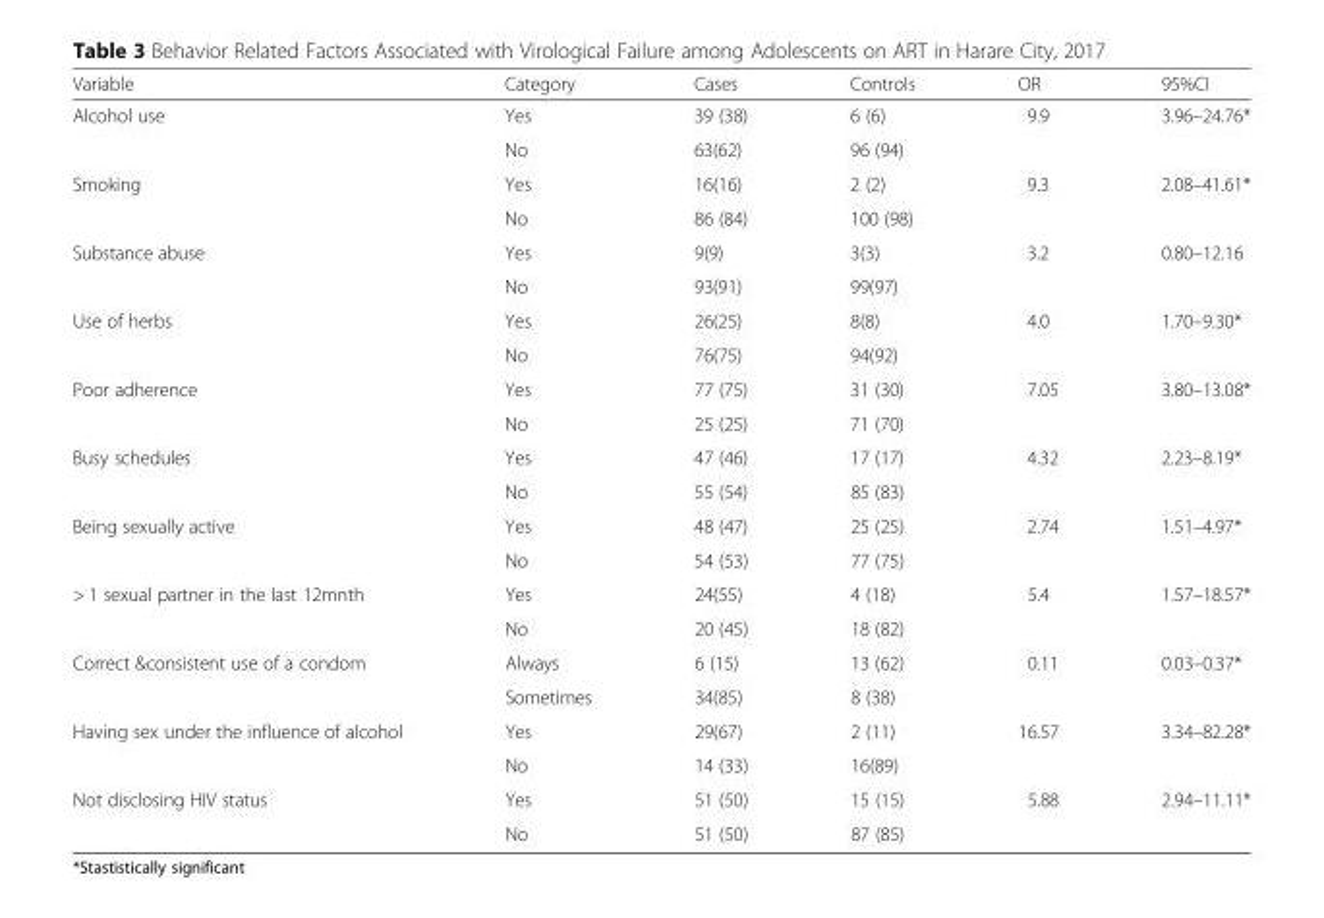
<table><thead><tr><td>Variable</td><td>Category</td><td>Cases</td><td>Controls</td><td>OR</td><td>95%CI</td></tr></thead><tbody><tr><td rowspan="2">Alcohol use</td><td>Yes</td><td>39 (38)</td><td>6 (6)</td><td>9.9</td><td>3.96–24.76*</td></tr><tr><td>No</td><td>63(62)</td><td>96 (94)</td><td></td><td></td></tr><tr><td rowspan="2">Smoking</td><td>Yes</td><td>16(16)</td><td>2 (2)</td><td>9.3</td><td>2.08–41.61*</td></tr><tr><td>No</td><td>86 (84)</td><td>100 (98)</td><td></td><td></td></tr><tr><td rowspan="2">Substance abuse</td><td>Yes</td><td>9(9)</td><td>3(3)</td><td>3.2</td><td>0.80–12.16</td></tr><tr><td>No</td><td>93(91)</td><td>99(97)</td><td></td><td></td></tr><tr><td rowspan="2">Use of herbs</td><td>Yes</td><td>26(25)</td><td>8(8)</td><td>4.0</td><td>1.70–9.30*</td></tr><tr><td>No</td><td>76(75)</td><td>94(92)</td><td></td><td></td></tr><tr><td rowspan="2">Poor adherence</td><td>Yes</td><td>77 (75)</td><td>31 (30)</td><td>7.05</td><td>3.80–13.08*</td></tr><tr><td>No</td><td>25 (25)</td><td>71 (70)</td><td></td><td></td></tr><tr><td rowspan="2">Busy schedules</td><td>Yes</td><td>47 (46)</td><td>17 (17)</td><td>4.32</td><td>2.23–8.19*</td></tr><tr><td>No</td><td>55 (54)</td><td>85 (83)</td><td></td><td></td></tr><tr><td rowspan="2">Being sexually active</td><td>Yes</td><td>48 (47)</td><td>25 (25)</td><td>2.74</td><td>1.51–4.97*</td></tr><tr><td>No</td><td>54 (53)</td><td>77 (75)</td><td></td><td></td></tr><tr><td rowspan="2">&gt; 1 sexual partner in the last 12mnth</td><td>Yes</td><td>24(55)</td><td>4 (18)</td><td>5.4</td><td>1.57–18.57*</td></tr><tr><td>No</td><td>20 (45)</td><td>18 (82)</td><td></td><td></td></tr><tr><td rowspan="2">Correct &amp;consistent use of a condom</td><td>Always</td><td>6 (15)</td><td>13 (62)</td><td>0.11</td><td>0.03–0.37*</td></tr><tr><td>Sometimes</td><td>34(85)</td><td>8 (38)</td><td></td><td></td></tr><tr><td rowspan="2">Having sex under the influence of alcohol</td><td>Yes</td><td>29(67)</td><td>2 (11)</td><td>16.57</td><td>3.34–82.28*</td></tr><tr><td>No</td><td>14 (33)</td><td>16(89)</td><td></td><td></td></tr><tr><td rowspan="2">Not disclosing HIV status</td><td>Yes</td><td>51 (50)</td><td>15 (15)</td><td>5.88</td><td>2.94–11.11*</td></tr><tr><td>No</td><td>51 (50)</td><td>87 (85)</td><td></td><td></td></tr></tbody></table>